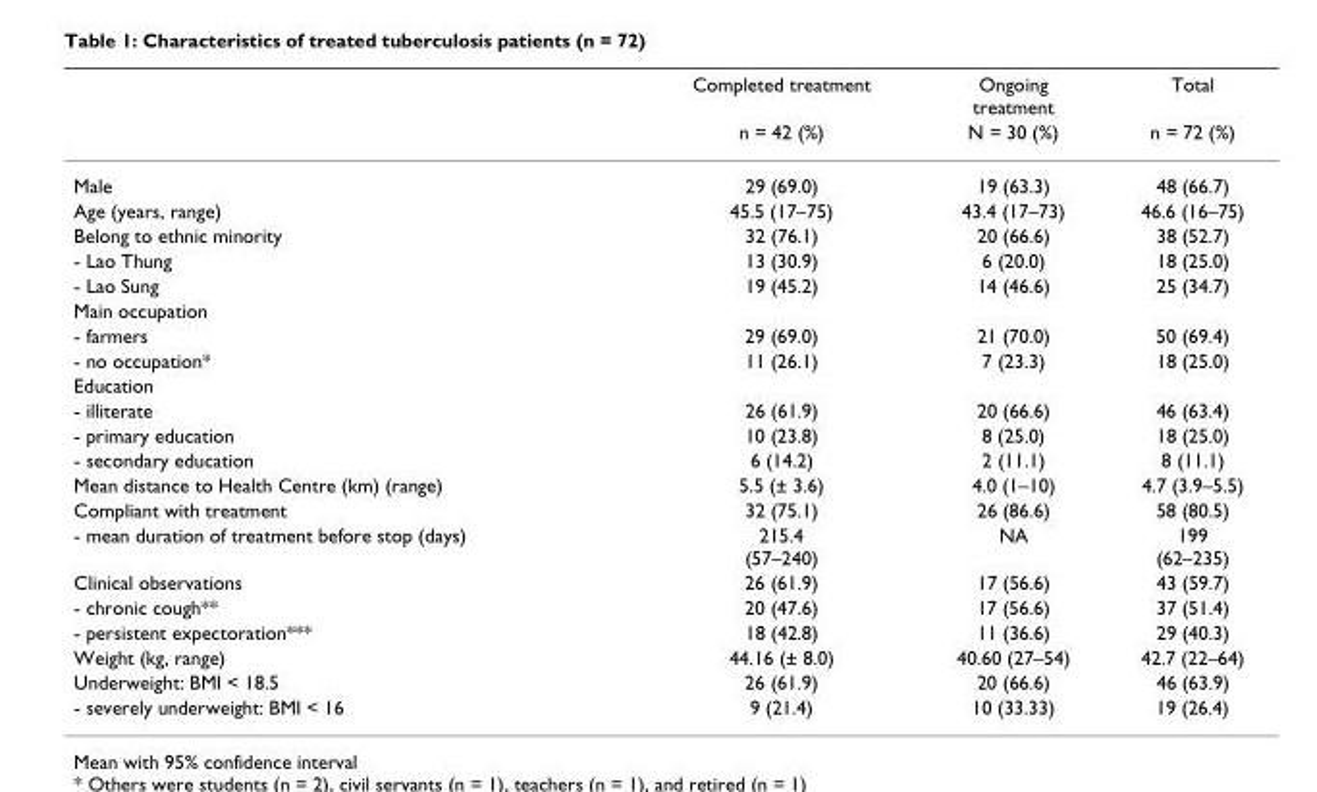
<table><thead><tr><td rowspan="2"></td><td rowspan="2">Completed treatment n = 42 (%)</td><td rowspan="2">Ongoing treatment N = 30 (%)</td><td rowspan="2">Total n = 72 (%)</td></tr><tr></tr></thead><tbody><tr><td>Male</td><td>29 (69.0)</td><td>19 (63.3)</td><td>48 (66.7)</td></tr><tr><td>Age (years, range)</td><td>45.5 (17–75)</td><td>43.4 (17–73)</td><td>46.6 (16–75)</td></tr><tr><td>Belong to ethnic minority</td><td>32 (76.1)</td><td>20 (66.6)</td><td>38 (52.7)</td></tr><tr><td>- Lao Thung</td><td>13 (30.9)</td><td>6 (20.0)</td><td>18 (25.0)</td></tr><tr><td>- Lao Sung</td><td>19 (45.2)</td><td>14 (46.6)</td><td>25 (34.7)</td></tr><tr><td colspan="4">Main occupation</td></tr><tr><td>- farmers</td><td>29 (69.0)</td><td>21 (70.0)</td><td>50 (69.4)</td></tr><tr><td>- no occupation*</td><td>11 (26.1)</td><td>7 (23.3)</td><td>18 (25.0)</td></tr><tr><td colspan="4">Education</td></tr><tr><td>- illiterate</td><td>26 (61.9)</td><td>20 (66.6)</td><td>46 (63.4)</td></tr><tr><td>- primary education</td><td>10 (23.8)</td><td>8 (25.0)</td><td>18 (25.0)</td></tr><tr><td>- secondary education</td><td>6 (14.2)</td><td>2 (11.1)</td><td>8 (11.1)</td></tr><tr><td>Mean distance to Health Centre (km) (range)</td><td>5.5 (± 3.6)</td><td>4.0 (1–10)</td><td>4.7 (3.9–5.5)</td></tr><tr><td>Compliant with treatment</td><td>32 (75.1)</td><td>26 (86.6)</td><td>58 (80.5)</td></tr><tr><td>- mean duration of treatment before stop (days)</td><td>215.4 (57–240)</td><td>NA</td><td>199 (62–235)</td></tr><tr><td>Clinical observations</td><td>26 (61.9)</td><td>17 (56.6)</td><td>43 (59.7)</td></tr><tr><td>- chronic cough**</td><td>20 (47.6)</td><td>17 (56.6)</td><td>37 (51.4)</td></tr><tr><td>- persistent expectoration***</td><td>18 (42.8)</td><td>11 (36.6)</td><td>29 (40.3)</td></tr><tr><td>Weight (kg, range)</td><td>44.16 (± 8.0)</td><td>40.60 (27–54)</td><td>42.7 (22–64)</td></tr><tr><td>Underweight: BMI &lt; 18.5</td><td>26 (61.9)</td><td>20 (66.6)</td><td>46 (63.9)</td></tr><tr><td>- severely underweight: BMI &lt; 16</td><td>9 (21.4)</td><td>10 (33.33)</td><td>19 (26.4)</td></tr></tbody></table>